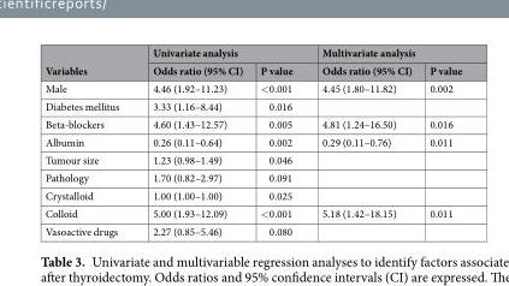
<table><thead><tr><td rowspan="2">Variables</td><td colspan="2">Univariate analysis</td><td colspan="2">Multivariate analysis</td></tr><tr><td>Odds ratio (95% CI)</td><td>P value</td><td>Odds ratio (95% CI)</td><td>P value</td></tr></thead><tbody><tr><td>Male</td><td>4.46 (1.92–11.23)</td><td>&lt;0.001</td><td>4.45 (1.80–11.82)</td><td>0.002</td></tr><tr><td>Diabetes mellitus</td><td>3.33 (1.16–8.44)</td><td>0.016</td><td></td><td></td></tr><tr><td>Beta-blockers</td><td>4.60 (1.43–12.57)</td><td>0.005</td><td>4.81 (1.24–16.50)</td><td>0.016</td></tr><tr><td>Albumin</td><td>0.26 (0.11–0.64)</td><td>0.002</td><td>0.29 (0.11–0.76)</td><td>0.011</td></tr><tr><td>Tumour size</td><td>1.23 (0.98–1.49)</td><td>0.046</td><td></td><td></td></tr><tr><td>Pathology</td><td>1.70 (0.82–2.97)</td><td>0.091</td><td></td><td></td></tr><tr><td>Crystalloid</td><td>1.00 (1.00–1.00)</td><td>0.025</td><td></td><td></td></tr><tr><td>Colloid</td><td>5.00 (1.93–12.09)</td><td>&lt;0.001</td><td>5.18 (1.42–18.15)</td><td>0.011</td></tr><tr><td>Vasoactive drugs</td><td>2.27 (0.85–5.46)</td><td>0.080</td><td></td><td></td></tr></tbody></table>